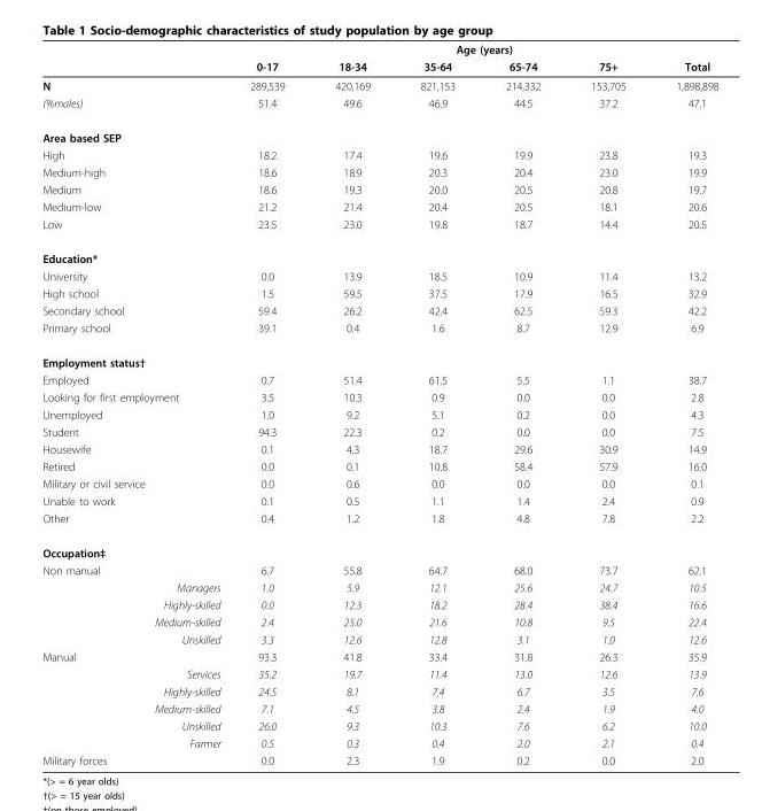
<table><thead><tr><td rowspan="2"></td><td colspan="6">Age (years)</td></tr><tr><td>0-17</td><td>18-34</td><td>35-64</td><td>65-74</td><td>75+</td><td>Total</td></tr></thead><tbody><tr><td>N</td><td>289,539</td><td>420,169</td><td>821,153</td><td>214,332</td><td>153,705</td><td>1,898,898</td></tr><tr><td>(%males)</td><td>51.4</td><td>49.6</td><td>46.9</td><td>44.5</td><td>37.2</td><td>47.1</td></tr><tr><td colspan="7">Area based SEP</td></tr><tr><td>High</td><td>18.2</td><td>17.4</td><td>19.6</td><td>19.9</td><td>23.8</td><td>19.3</td></tr><tr><td>Medium-high</td><td>18.6</td><td>18.9</td><td>20.3</td><td>20.4</td><td>23.0</td><td>19.9</td></tr><tr><td>Medium</td><td>18.6</td><td>19.3</td><td>20.0</td><td>20.5</td><td>20.8</td><td>19.7</td></tr><tr><td>Medium-low</td><td>21.2</td><td>21.4</td><td>20.4</td><td>20.5</td><td>18.1</td><td>20.6</td></tr><tr><td>Low</td><td>23.5</td><td>23.0</td><td>19.8</td><td>18.7</td><td>14.4</td><td>20.5</td></tr><tr><td colspan="7">Education*</td></tr><tr><td>University</td><td>0.0</td><td>13.9</td><td>18.5</td><td>10.9</td><td>11.4</td><td>13.2</td></tr><tr><td>High school</td><td>1.5</td><td>59.5</td><td>37.5</td><td>17.9</td><td>16.5</td><td>32.9</td></tr><tr><td>Secondary school</td><td>59.4</td><td>26.2</td><td>42.4</td><td>62.5</td><td>59.3</td><td>42.2</td></tr><tr><td>Primary school</td><td>39.1</td><td>0.4</td><td>1.6</td><td>8.7</td><td>12.9</td><td>6.9</td></tr><tr><td colspan="7">Employment status†</td></tr><tr><td>Employed</td><td>0.7</td><td>51.4</td><td>61.5</td><td>5.5</td><td>1.1</td><td>38.7</td></tr><tr><td>Looking for first employment</td><td>3.5</td><td>10.3</td><td>0.9</td><td>0.0</td><td>0.0</td><td>2.8</td></tr><tr><td>Unemployed</td><td>1.0</td><td>9.2</td><td>5.1</td><td>0.2</td><td>0.0</td><td>4.3</td></tr><tr><td>Student</td><td>94.3</td><td>22.3</td><td>0.2</td><td>0.0</td><td>0.0</td><td>7.5</td></tr><tr><td>Housewife</td><td>0.1</td><td>4.3</td><td>18.7</td><td>29.6</td><td>30.9</td><td>14.9</td></tr><tr><td>Retired</td><td>0.0</td><td>0.1</td><td>10.8</td><td>58.4</td><td>57.9</td><td>16.0</td></tr><tr><td>Military or civil service</td><td>0.0</td><td>0.6</td><td>0.0</td><td>0.0</td><td>0.0</td><td>0.1</td></tr><tr><td>Unable to work</td><td>0.1</td><td>0.5</td><td>1.1</td><td>1.4</td><td>2.4</td><td>0.9</td></tr><tr><td>Other</td><td>0.4</td><td>1.2</td><td>1.8</td><td>4.8</td><td>7.8</td><td>2.2</td></tr><tr><td colspan="7">Occupation‡</td></tr><tr><td>Non manual</td><td>6.7</td><td>55.8</td><td>64.7</td><td>68.0</td><td>73.7</td><td>62.1</td></tr><tr><td>Managers</td><td>1.0</td><td>5.9</td><td>12.1</td><td>25.6</td><td>24.7</td><td>10.5</td></tr><tr><td>Highly-skilled</td><td>0.0</td><td>12.3</td><td>18.2</td><td>28.4</td><td>38.4</td><td>16.6</td></tr><tr><td>Medium-skilled</td><td>2.4</td><td>25.0</td><td>21.6</td><td>10.8</td><td>9.5</td><td>22.4</td></tr><tr><td>Unskilled</td><td>3.3</td><td>12.6</td><td>12.8</td><td>3.1</td><td>1.0</td><td>12.6</td></tr><tr><td>Manual</td><td>93.3</td><td>41.8</td><td>33.4</td><td>31.8</td><td>26.3</td><td>35.9</td></tr><tr><td>Services</td><td>35.2</td><td>19.7</td><td>11.4</td><td>13.0</td><td>12.6</td><td>13.9</td></tr><tr><td>Highly-skilled</td><td>24.5</td><td>8.1</td><td>7.4</td><td>6.7</td><td>3.5</td><td>7.6</td></tr><tr><td>Medium-skilled</td><td>7.1</td><td>4.5</td><td>3.8</td><td>2.4</td><td>1.9</td><td>4.0</td></tr><tr><td>Unskilled</td><td>26.0</td><td>9.3</td><td>10.3</td><td>7.6</td><td>6.2</td><td>10.0</td></tr><tr><td>Farmer</td><td>0.5</td><td>0.3</td><td>0.4</td><td>2.0</td><td>2.1</td><td>0.4</td></tr><tr><td>Military forces</td><td>0.0</td><td>2.3</td><td>1.9</td><td>0.2</td><td>0.0</td><td>2.0</td></tr></tbody></table>